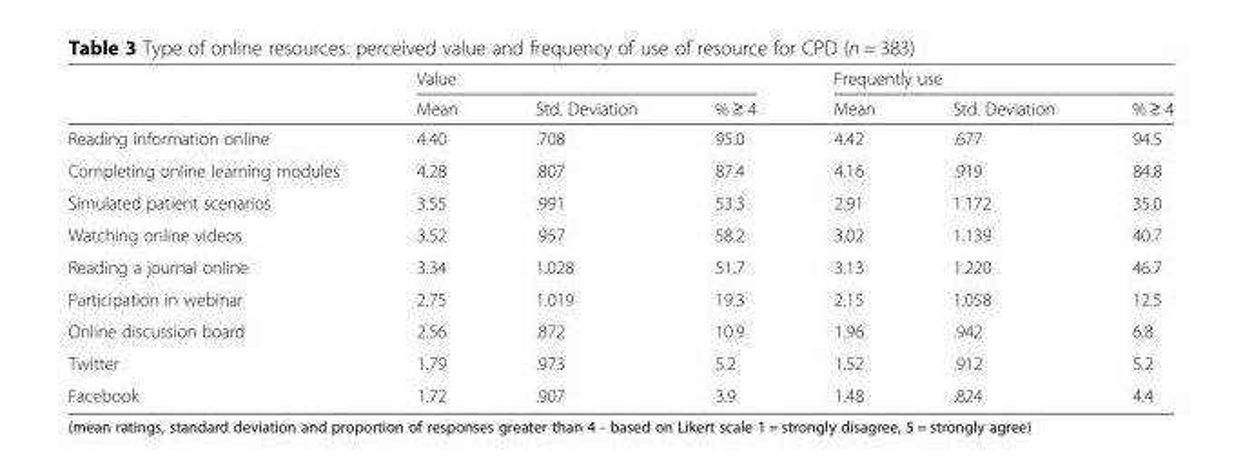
<table><thead><tr><td rowspan="2"></td><td colspan="3">Value</td><td colspan="3">Frequently use</td></tr><tr><td>Mean</td><td>Std. Deviation</td><td>% ≥ 4</td><td>Mean</td><td>Std. Deviation</td><td>% ≥ 4</td></tr></thead><tbody><tr><td>Reading information online</td><td>4.40</td><td>.708</td><td>95.0</td><td>4.42</td><td>.677</td><td>94.5</td></tr><tr><td>Completing online learning modules</td><td>4.28</td><td>.807</td><td>87.4</td><td>4.16</td><td>.919</td><td>84.8</td></tr><tr><td>Simulated patient scenarios</td><td>3.55</td><td>.991</td><td>53.3</td><td>2.91</td><td>1.172</td><td>35.0</td></tr><tr><td>Watching online videos</td><td>3.52</td><td>.957</td><td>58.2</td><td>3.02</td><td>1.139</td><td>40.7</td></tr><tr><td>Reading a journal online</td><td>3.34</td><td>1.028</td><td>51.7</td><td>3.13</td><td>1.220</td><td>46.7</td></tr><tr><td>Participation in webinar</td><td>2.75</td><td>1.019</td><td>19.3</td><td>2.15</td><td>1.058</td><td>12.5</td></tr><tr><td>Online discussion board</td><td>2.56</td><td>.872</td><td>10.9</td><td>1.96</td><td>.942</td><td>6.8</td></tr><tr><td>Twitter</td><td>1.79</td><td>.973</td><td>5.2</td><td>1.52</td><td>.912</td><td>5.2</td></tr><tr><td>Facebook</td><td>1.72</td><td>.907</td><td>3.9</td><td>1.48</td><td>.824</td><td>4.4</td></tr></tbody></table>